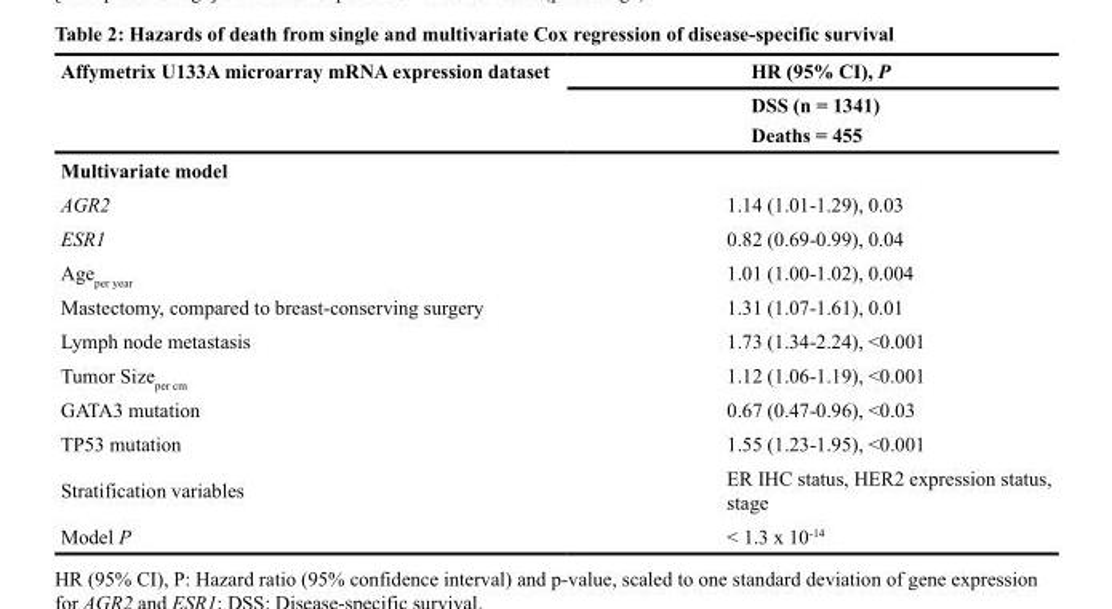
<table><thead><tr><td rowspan="2">Affymetrix U133A microarray mRNA expression dataset</td><td rowspan="2">HR (95% CI), P DSS (n = 1341) Deaths = 455</td></tr><tr></tr></thead><tbody><tr><td colspan="2">Multivariate model</td></tr><tr><td>AGR2</td><td>1.14 (1.01-1.29), 0.03</td></tr><tr><td>ESR1</td><td>0.82 (0.69-0.99), 0.04</td></tr><tr><td>Age<sub>per year</sub></td><td>1.01 (1.00-1.02), 0.004</td></tr><tr><td>Mastectomy, compared to breast-conserving surgery</td><td>1.31 (1.07-1.61), 0.01</td></tr><tr><td>Lymph node metastasis</td><td>1.73 (1.34-2.24), &lt;0.001</td></tr><tr><td>Tumor Size<sub>per cm</sub></td><td>1.12 (1.06-1.19), &lt;0.001</td></tr><tr><td>GATA3 mutation</td><td>0.67 (0.47-0.96), &lt;0.03</td></tr><tr><td>TP53 mutation</td><td>1.55 (1.23-1.95), &lt;0.001</td></tr><tr><td>Stratification variables</td><td>ER IHC status, HER2 expression status, stage</td></tr><tr><td>Model P</td><td>&lt; 1.3 x 10<sup>-14</sup></td></tr></tbody></table>